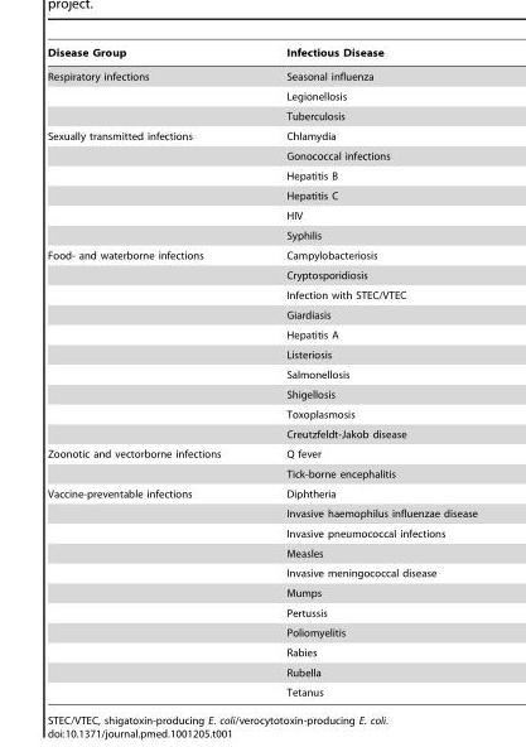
<table><thead><tr><td>Disease Group</td><td>Infectious Disease</td></tr></thead><tbody><tr><td rowspan="3">Respiratory infections</td><td>Seasonal influenza</td></tr><tr><td>Legionellosis</td></tr><tr><td>Tuberculosis</td></tr><tr><td rowspan="6">Sexually transmitted infections</td><td>Chlamydia</td></tr><tr><td>Gonococcal infections</td></tr><tr><td>Hepatitis B</td></tr><tr><td>Hepatitis C</td></tr><tr><td>HIV</td></tr><tr><td>Syphilis</td></tr><tr><td rowspan="10">Food- and waterborne infections</td><td>Campylobacteriosis</td></tr><tr><td>Cryptosporidiosis</td></tr><tr><td>Infection with STEC/VTEC</td></tr><tr><td>Giardiasis</td></tr><tr><td>Hepatitis A</td></tr><tr><td>Listeriosis</td></tr><tr><td>Salmonellosis</td></tr><tr><td>Shigellosis</td></tr><tr><td>Toxoplasmosis</td></tr><tr><td>Creutzfeldt-Jakob disease</td></tr><tr><td rowspan="2">Zoonotic and vectorborne infections</td><td>Q fever</td></tr><tr><td>Tick-borne encephalitis</td></tr><tr><td rowspan="11">Vaccine-preventable infections</td><td>Diphtheria</td></tr><tr><td>Invasive haemophilus influenzae disease</td></tr><tr><td>Invasive pneumococcal infections</td></tr><tr><td>Measles</td></tr><tr><td>Invasive meningococcal disease</td></tr><tr><td>Mumps</td></tr><tr><td>Pertussis</td></tr><tr><td>Poliomyelitis</td></tr><tr><td>Rabies</td></tr><tr><td>Rubella</td></tr><tr><td>Tetanus</td></tr></tbody></table>